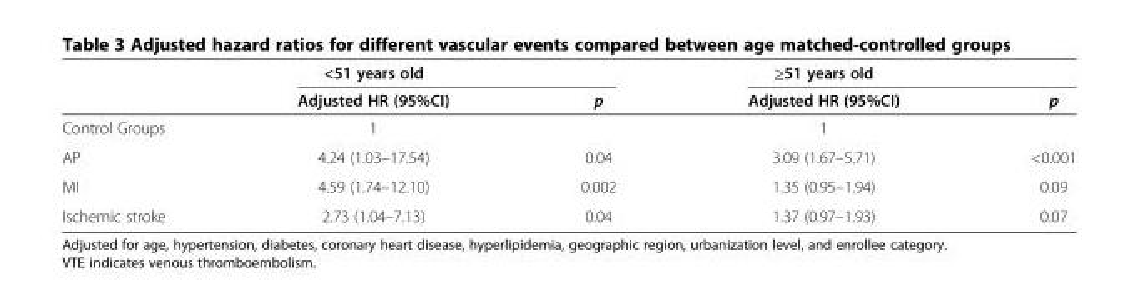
<table><thead><tr><td rowspan="2"></td><td rowspan="2">&lt;51 years old Adjusted HR (95%CI)</td><td rowspan="2">p</td><td rowspan="2">≥51 years old Adjusted HR (95%CI)</td><td rowspan="2">p</td></tr><tr></tr></thead><tbody><tr><td>Control Groups</td><td>1</td><td></td><td>1</td><td></td></tr><tr><td>AP</td><td>4.24 (1.03–17.54)</td><td>0.04</td><td>3.09 (1.67–5.71)</td><td>&lt;0.001</td></tr><tr><td>MI</td><td>4.59 (1.74–12.10)</td><td>0.002</td><td>1.35 (0.95–1.94)</td><td>0.09</td></tr><tr><td>Ischemic stroke</td><td>2.73 (1.04–7.13)</td><td>0.04</td><td>1.37 (0.97–1.93)</td><td>0.07</td></tr></tbody></table>